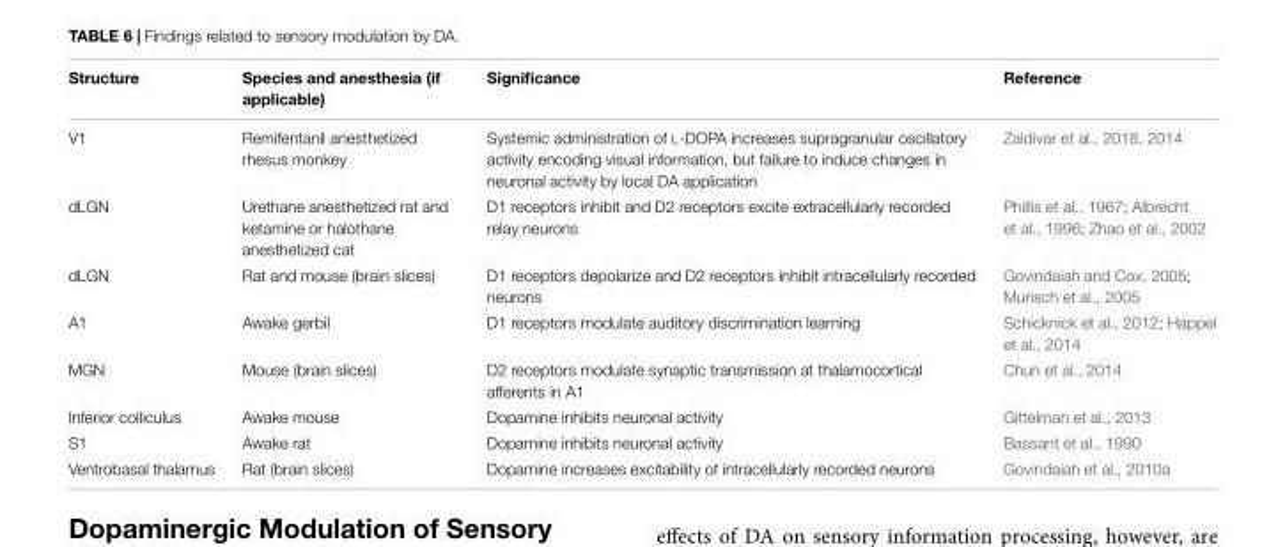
<table><thead><tr><td>Structure</td><td>Species and anesthesia (if applicable)</td><td>Significance</td><td>Reference</td></tr></thead><tbody><tr><td>V1</td><td>Remifentanil anesthetized rhesus monkey</td><td>Systemic administration of L-DOPA increases supragranular oscillatory activity encoding visual information, but failure to induce changes in neuronal activity by local DA application</td><td>Zaldivar et al., 2018, 2014</td></tr><tr><td>dLGN</td><td>Urethane anesthetized rat and ketamine or halothane anesthetized cat</td><td>D1 receptors inhibit and D2 receptors excite extracellularly recorded relay neurons</td><td>Phillis et al., 1967; Albrecht et al., 1996; Zhao et al., 2002</td></tr><tr><td>dLGN</td><td>Rat and mouse (brain slices)</td><td>D1 receptors depolarize and D2 receptors inhibit intracellularly recorded neurons</td><td>Govindaiah and Cox, 2005; Munsch et al., 2005</td></tr><tr><td>A1</td><td>Awake gerbil</td><td>D1 receptors modulate auditory discrimination learning</td><td>Schicknick et al., 2012; Happel et al., 2014</td></tr><tr><td>MGN</td><td>Mouse (brain slices)</td><td>D2 receptors modulate synaptic transmission at thalamocortical afferents in A1</td><td>Chun et al., 2014</td></tr><tr><td>Inferior colliculus</td><td>Awake mouse</td><td>Dopamine inhibits neuronal activity</td><td>Gittelman et al., 2013</td></tr><tr><td>S1</td><td>Awake rat</td><td>Dopamine inhibits neuronal activity</td><td>Bassant et al., 1990</td></tr><tr><td>Ventrobasal thalamus</td><td>Rat (brain slices)</td><td>Dopamine increases excitability of intracellularly recorded neurons</td><td>Govindaiah et al., 2010a</td></tr></tbody></table>